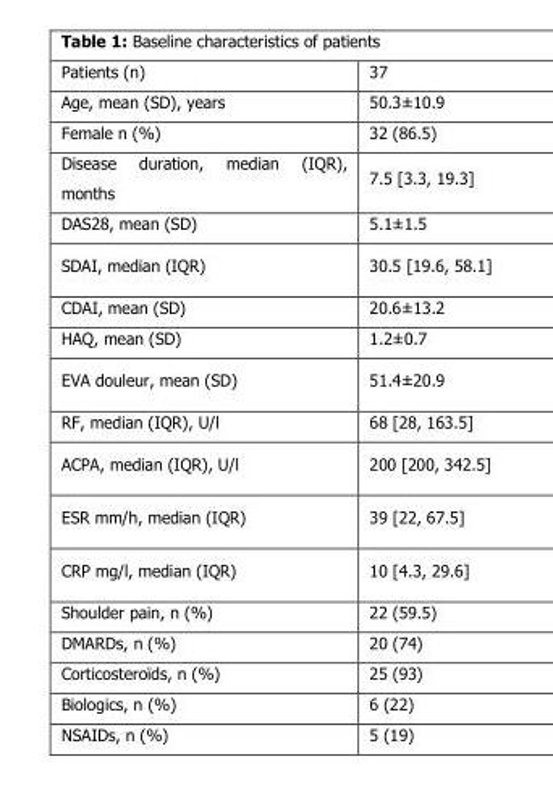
<table><tbody><tr><td>Patients (n)</td><td>37</td></tr><tr><td>Age, mean (SD), years</td><td>50.3±10.9</td></tr><tr><td>Female n (%)</td><td>32 (86.5)</td></tr><tr><td>Disease duration, median (IQR), months</td><td>7.5 [3.3, 19.3]</td></tr><tr><td>DAS28, mean (SD)</td><td>5.1±1.5</td></tr><tr><td>SDAI, median (IQR)</td><td>30.5 [19.6, 58.1]</td></tr><tr><td>CDAI, mean (SD)</td><td>20.6±13.2</td></tr><tr><td>HAQ, mean (SD)</td><td>1.2±0.7</td></tr><tr><td>EVA douleur, mean (SD)</td><td>51.4±20.9</td></tr><tr><td>RF, median (IQR), U/l</td><td>68 [28, 163.5]</td></tr><tr><td>ACPA, median (IQR), U/l</td><td>200 [200, 342.5]</td></tr><tr><td>ESR mm/h, median (IQR)</td><td>39 [22, 67.5]</td></tr><tr><td>CRP mg/l, median (IQR)</td><td>10 [4.3, 29.6]</td></tr><tr><td>Shoulder pain, n (%)</td><td>22 (59.5)</td></tr><tr><td>DMARDs, n (%)</td><td>20 (74)</td></tr><tr><td>Corticosteroïds, n (%)</td><td>25 (93)</td></tr><tr><td>Biologics, n (%)</td><td>6 (22)</td></tr><tr><td>NSAIDs, n (%)</td><td>5 (19)</td></tr></tbody></table>